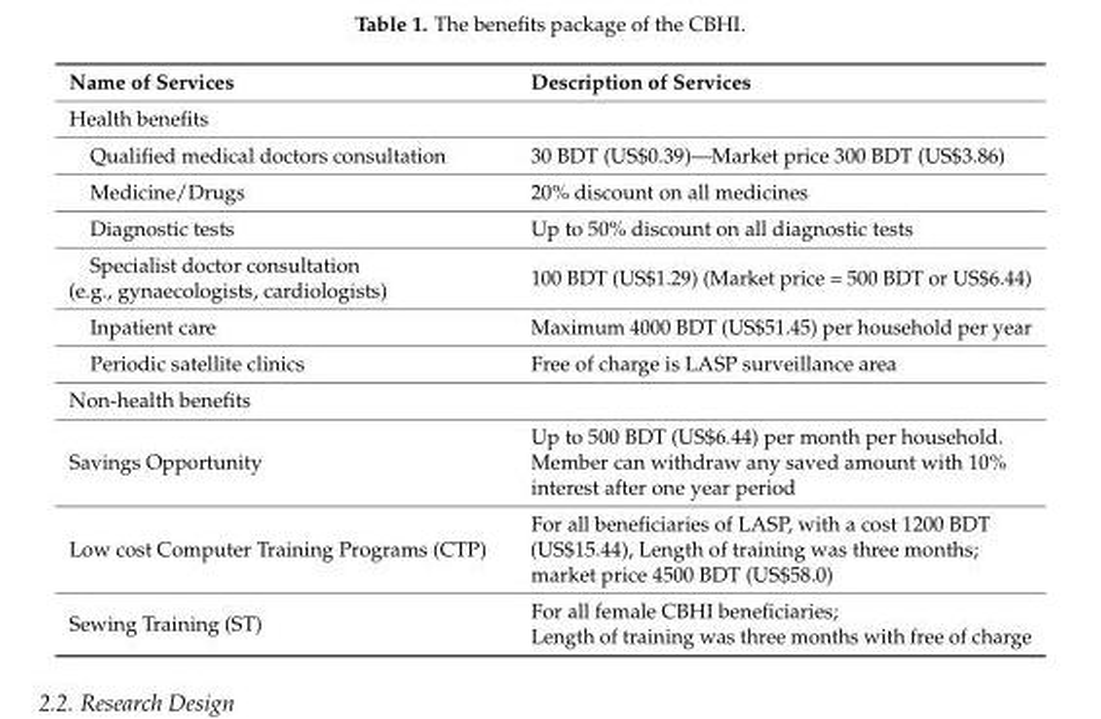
<table><thead><tr><td>Name of Services</td><td>Description of Services</td></tr></thead><tbody><tr><td colspan="2">Health benefits</td></tr><tr><td>Qualified medical doctors consultation</td><td>30 BDT (US$0.39)—Market price 300 BDT (US$3.86)</td></tr><tr><td>Medicine/Drugs</td><td>20% discount on all medicines</td></tr><tr><td>Diagnostic tests</td><td>Up to 50% discount on all diagnostic tests</td></tr><tr><td>Specialist doctor consultation (e.g., gynaecologists, cardiologists)</td><td>100 BDT (US$1.29) (Market price = 500 BDT or US$6.44)</td></tr><tr><td>Inpatient care</td><td>Maximum 4000 BDT (US$51.45) per household per year</td></tr><tr><td>Periodic satellite clinics</td><td>Free of charge is LASP surveillance area</td></tr><tr><td colspan="2">Non-health benefits</td></tr><tr><td>Savings Opportunity</td><td>Up to 500 BDT (US$6.44) per month per household. Member can withdraw any saved amount with 10% interest after one year period</td></tr><tr><td>Low cost Computer Training Programs (CTP)</td><td>For all beneficiaries of LASP, with a cost 1200 BDT (US$15.44), Length of training was three months; market price 4500 BDT (US$58.0)</td></tr><tr><td>Sewing Training (ST)</td><td>For all female CBHI beneficiaries; Length of training was three months with free of charge</td></tr></tbody></table>